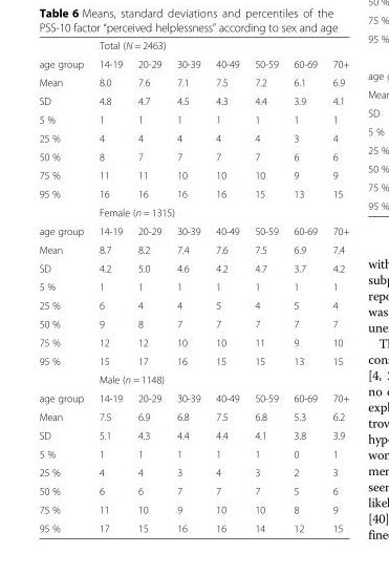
<table><thead><tr><td rowspan="2">age group</td><td colspan="7">Total (N = 2463)</td></tr><tr><td>14-19</td><td>20-29</td><td>30-39</td><td>40-49</td><td>50-59</td><td>60-69</td><td>70+</td></tr></thead><tbody><tr><td>Mean</td><td>8.0</td><td>7.6</td><td>7.1</td><td>7.5</td><td>7.2</td><td>6.1</td><td>6.9</td></tr><tr><td>SD</td><td>4.8</td><td>4.7</td><td>4.5</td><td>4.3</td><td>4.4</td><td>3.9</td><td>4.1</td></tr><tr><td>5 %</td><td>1</td><td>1</td><td>1</td><td>1</td><td>1</td><td>1</td><td>1</td></tr><tr><td>25 %</td><td>4</td><td>4</td><td>4</td><td>4</td><td>4</td><td>3</td><td>4</td></tr><tr><td>50 %</td><td>8</td><td>7</td><td>7</td><td>7</td><td>7</td><td>6</td><td>6</td></tr><tr><td>75 %</td><td>11</td><td>11</td><td>10</td><td>10</td><td>10</td><td>9</td><td>9</td></tr><tr><td rowspan="2">95 %</td><td>16</td><td>16</td><td>16</td><td>16</td><td>15</td><td>13</td><td>15</td></tr><tr><td colspan="7">Female (n = 1315)</td></tr><tr><td>age group</td><td>14-19</td><td>20-29</td><td>30-39</td><td>40-49</td><td>50-59</td><td>60-69</td><td>70+</td></tr><tr><td>Mean</td><td>8.7</td><td>8.2</td><td>7.4</td><td>7.6</td><td>7.5</td><td>6.9</td><td>7.4</td></tr><tr><td>SD</td><td>4.2</td><td>5.0</td><td>4.6</td><td>4.2</td><td>4.7</td><td>3.7</td><td>4.2</td></tr><tr><td>5 %</td><td>1</td><td>1</td><td>1</td><td>1</td><td>1</td><td>1</td><td>1</td></tr><tr><td>25 %</td><td>6</td><td>4</td><td>4</td><td>5</td><td>4</td><td>5</td><td>4</td></tr><tr><td>50 %</td><td>9</td><td>8</td><td>7</td><td>7</td><td>7</td><td>7</td><td>7</td></tr><tr><td>75 %</td><td>12</td><td>12</td><td>10</td><td>10</td><td>11</td><td>9</td><td>10</td></tr><tr><td rowspan="2">95 %</td><td>15</td><td>17</td><td>16</td><td>15</td><td>15</td><td>13</td><td>15</td></tr><tr><td colspan="7">Male (n = 1148)</td></tr><tr><td>age group</td><td>14-19</td><td>20-29</td><td>30-39</td><td>40-49</td><td>50-59</td><td>60-69</td><td>70+</td></tr><tr><td>Mean</td><td>7.5</td><td>6.9</td><td>6.8</td><td>7.5</td><td>6.8</td><td>5.3</td><td>6.2</td></tr><tr><td>SD</td><td>5.1</td><td>4.3</td><td>4.4</td><td>4.4</td><td>4.1</td><td>3.8</td><td>3.9</td></tr><tr><td>5 %</td><td>1</td><td>1</td><td>1</td><td>1</td><td>1</td><td>0</td><td>1</td></tr><tr><td>25 %</td><td>4</td><td>4</td><td>3</td><td>4</td><td>3</td><td>2</td><td>3</td></tr><tr><td>50 %</td><td>6</td><td>6</td><td>7</td><td>7</td><td>7</td><td>5</td><td>6</td></tr><tr><td>75 %</td><td>11</td><td>10</td><td>9</td><td>10</td><td>10</td><td>8</td><td>9</td></tr><tr><td>95 %</td><td>17</td><td>15</td><td>16</td><td>16</td><td>14</td><td>12</td><td>15</td></tr></tbody></table>